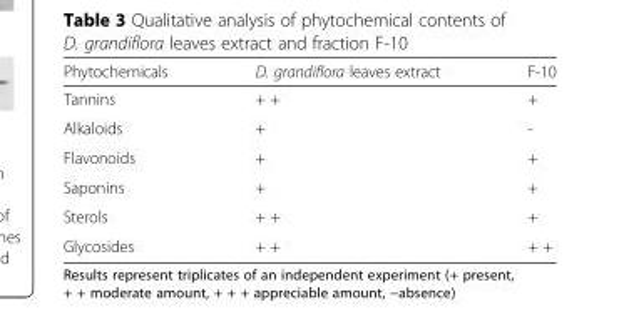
<table><thead><tr><td>Phytochemicals</td><td>D. grandiflora leaves extract</td><td>F-10</td></tr></thead><tbody><tr><td>Tannins</td><td>+ +</td><td>+</td></tr><tr><td>Alkaloids</td><td>+</td><td>-</td></tr><tr><td>Flavonoids</td><td>+</td><td>+</td></tr><tr><td>Saponins</td><td>+</td><td>+</td></tr><tr><td>Sterols</td><td>+ +</td><td>+</td></tr><tr><td>Glycosides</td><td>+ +</td><td>+ +</td></tr></tbody></table>